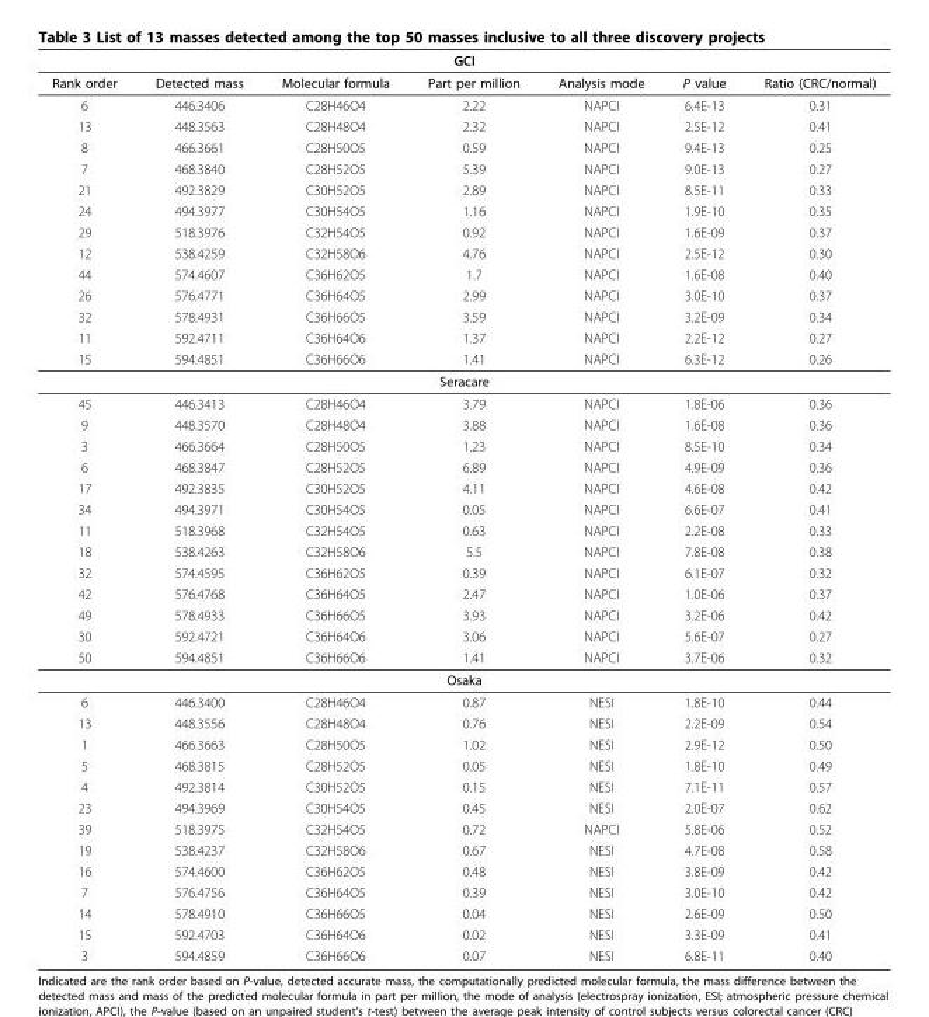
<table><thead><tr><td colspan="7">GCI</td></tr><tr><td>Rank order</td><td>Detected mass</td><td>Molecular formula</td><td>Part per million</td><td>Analysis mode</td><td>P value</td><td>Ratio (CRC/normal)</td></tr></thead><tbody><tr><td>6</td><td>446.3406</td><td>C28H46O4</td><td>2.22</td><td>NAPCI</td><td>6.4E-13</td><td>0.31</td></tr><tr><td>13</td><td>448.3563</td><td>C28H48O4</td><td>2.32</td><td>NAPCI</td><td>2.5E-12</td><td>0.41</td></tr><tr><td>8</td><td>466.3661</td><td>C28H50O5</td><td>0.59</td><td>NAPCI</td><td>9.4E-13</td><td>0.25</td></tr><tr><td>7</td><td>468.3840</td><td>C28H52O5</td><td>5.39</td><td>NAPCI</td><td>9.0E-13</td><td>0.27</td></tr><tr><td>21</td><td>492.3829</td><td>C30H52O5</td><td>2.89</td><td>NAPCI</td><td>8.5E-11</td><td>0.33</td></tr><tr><td>24</td><td>494.3977</td><td>C30H54O5</td><td>1.16</td><td>NAPCI</td><td>1.9E-10</td><td>0.35</td></tr><tr><td>29</td><td>518.3976</td><td>C32H54O5</td><td>0.92</td><td>NAPCI</td><td>1.6E-09</td><td>0.37</td></tr><tr><td>12</td><td>538.4259</td><td>C32H58O6</td><td>4.76</td><td>NAPCI</td><td>2.5E-12</td><td>0.30</td></tr><tr><td>44</td><td>574.4607</td><td>C36H62O5</td><td>1.7</td><td>NAPCI</td><td>1.6E-08</td><td>0.40</td></tr><tr><td>26</td><td>576.4771</td><td>C36H64O5</td><td>2.99</td><td>NAPCI</td><td>3.0E-10</td><td>0.37</td></tr><tr><td>32</td><td>578.4931</td><td>C36H66O5</td><td>3.59</td><td>NAPCI</td><td>3.2E-09</td><td>0.34</td></tr><tr><td>11</td><td>592.4711</td><td>C36H64O6</td><td>1.37</td><td>NAPCI</td><td>2.2E-12</td><td>0.27</td></tr><tr><td>15</td><td>594.4851</td><td>C36H66O6</td><td>1.41</td><td>NAPCI</td><td>6.3E-12</td><td>0.26</td></tr><tr><td colspan="7">Seracare</td></tr><tr><td>45</td><td>446.3413</td><td>C28H46O4</td><td>3.79</td><td>NAPCI</td><td>1.8E-06</td><td>0.36</td></tr><tr><td>9</td><td>448.3570</td><td>C28H48O4</td><td>3.88</td><td>NAPCI</td><td>1.6E-08</td><td>0.36</td></tr><tr><td>3</td><td>466.3664</td><td>C28H50O5</td><td>1.23</td><td>NAPCI</td><td>8.5E-10</td><td>0.34</td></tr><tr><td>6</td><td>468.3847</td><td>C28H52O5</td><td>6.89</td><td>NAPCI</td><td>4.9E-09</td><td>0.36</td></tr><tr><td>17</td><td>492.3835</td><td>C30H52O5</td><td>4.11</td><td>NAPCI</td><td>4.6E-08</td><td>0.42</td></tr><tr><td>34</td><td>494.3971</td><td>C30H54O5</td><td>0.05</td><td>NAPCI</td><td>6.6E-07</td><td>0.41</td></tr><tr><td>11</td><td>518.3968</td><td>C32H54O5</td><td>0.63</td><td>NAPCI</td><td>2.2E-08</td><td>0.33</td></tr><tr><td>18</td><td>538.4263</td><td>C32H58O6</td><td>5.5</td><td>NAPCI</td><td>7.8E-08</td><td>0.38</td></tr><tr><td>32</td><td>574.4595</td><td>C36H62O5</td><td>0.39</td><td>NAPCI</td><td>6.1E-07</td><td>0.32</td></tr><tr><td>42</td><td>576.4768</td><td>C36H64O5</td><td>2.47</td><td>NAPCI</td><td>1.0E-06</td><td>0.37</td></tr><tr><td>49</td><td>578.4933</td><td>C36H66O5</td><td>3.93</td><td>NAPCI</td><td>3.2E-06</td><td>0.42</td></tr><tr><td>30</td><td>592.4721</td><td>C36H64O6</td><td>3.06</td><td>NAPCI</td><td>5.6E-07</td><td>0.27</td></tr><tr><td>50</td><td>594.4851</td><td>C36H66O6</td><td>1.41</td><td>NAPCI</td><td>3.7E-06</td><td>0.32</td></tr><tr><td colspan="7">Osaka</td></tr><tr><td>6</td><td>446.3400</td><td>C28H46O4</td><td>0.87</td><td>NESI</td><td>1.8E-10</td><td>0.44</td></tr><tr><td>13</td><td>448.3556</td><td>C28H48O4</td><td>0.76</td><td>NESI</td><td>2.2E-09</td><td>0.54</td></tr><tr><td>1</td><td>466.3663</td><td>C28H50O5</td><td>1.02</td><td>NESI</td><td>2.9E-12</td><td>0.50</td></tr><tr><td>5</td><td>468.3815</td><td>C28H52O5</td><td>0.05</td><td>NESI</td><td>1.8E-10</td><td>0.49</td></tr><tr><td>4</td><td>492.3814</td><td>C30H52O5</td><td>0.15</td><td>NESI</td><td>7.1E-11</td><td>0.57</td></tr><tr><td>23</td><td>494.3969</td><td>C30H54O5</td><td>0.45</td><td>NESI</td><td>2.0E-07</td><td>0.62</td></tr><tr><td>39</td><td>518.3975</td><td>C32H54O5</td><td>0.72</td><td>NAPCI</td><td>5.8E-06</td><td>0.52</td></tr><tr><td>19</td><td>538.4237</td><td>C32H58O6</td><td>0.67</td><td>NESI</td><td>4.7E-08</td><td>0.58</td></tr><tr><td>16</td><td>574.4600</td><td>C36H62O5</td><td>0.48</td><td>NESI</td><td>3.8E-09</td><td>0.42</td></tr><tr><td>7</td><td>576.4756</td><td>C36H64O5</td><td>0.39</td><td>NESI</td><td>3.0E-10</td><td>0.42</td></tr><tr><td>14</td><td>578.4910</td><td>C36H66O5</td><td>0.04</td><td>NESI</td><td>2.6E-09</td><td>0.50</td></tr><tr><td>15</td><td>592.4703</td><td>C36H64O6</td><td>0.02</td><td>NESI</td><td>3.3E-09</td><td>0.41</td></tr><tr><td>3</td><td>594.4859</td><td>C36H66O6</td><td>0.07</td><td>NESI</td><td>6.8E-11</td><td>0.40</td></tr></tbody></table>